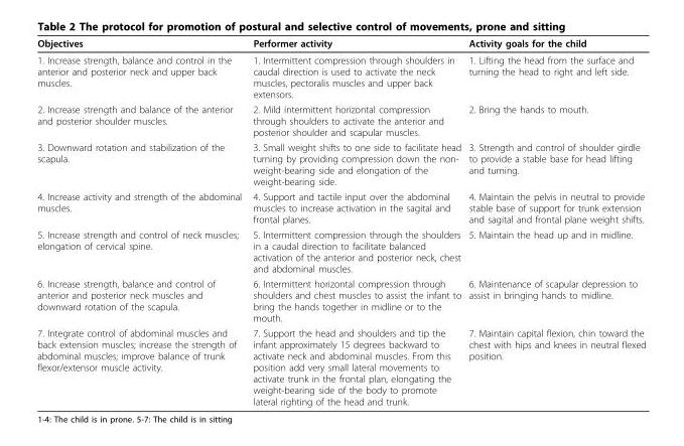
<table><thead><tr><td>Objectives</td><td>Performer activity</td><td>Activity goals for the child</td></tr></thead><tbody><tr><td>1. Increase strength, balance and control in the anterior and posterior neck and upper back muscles.</td><td>1. Intermittent compression through shoulders in caudal direction is used to activate the neck muscles, pectoralis muscles and upper back extensors.</td><td>1. Lifting the head from the surface and turning the head to right and left side.</td></tr><tr><td>2. Increase strength and balance of the anterior and posterior shoulder muscles.</td><td>2. Mild intermittent horizontal compression through shoulders to activate the anterior and posterior shoulder and scapular muscles.</td><td>2. Bring the hands to mouth.</td></tr><tr><td>3. Downward rotation and stabilization of the scapula.</td><td>3. Small weight shifts to one side to facilitate head turning by providing compression down the non- weight-bearing side and elongation of the weight-bearing side.</td><td>3. Strength and control of shoulder girdle to provide a stable base for head lifting and turning.</td></tr><tr><td>4. Increase activity and strength of the abdominal muscles.</td><td>4. Support and tactile input over the abdominal muscles to increase activation in the sagital and frontal planes.</td><td>4. Maintain the pelvis in neutral to provide stable base of support for trunk extension and sagital and frontal plane weight shifts.</td></tr><tr><td>5. Increase strength and control of neck muscles; elongation of cervical spine.</td><td>5. Intermittent compression through the shoulders in a caudal direction to facilitate balanced activation of the anterior and posterior neck, chest and abdominal muscles.</td><td>5. Maintain the head up and in midline.</td></tr><tr><td>6. Increase strength, balance and control of anterior and posterior neck muscles and downward rotation of the scapula.</td><td>6. Intermittent horizontal compression through shoulders and chest muscles to assist the infant to bring the hands together in midline or to the mouth.</td><td>6. Maintenance of scapular depression to assist in bringing hands to midline.</td></tr><tr><td>7. Integrate control of abdominal muscles and back extension muscles; increase the strength of abdominal muscles; improve balance of trunk flexor/extensor muscle activity.</td><td>7. Support the head and shoulders and tip the infant approximately 15 degrees backward to activate neck and abdominal muscles. From this position add very small lateral movements to activate trunk in the frontal plan, elongating the weight-bearing side of the body to promote lateral righting of the head and trunk.</td><td>7. Maintain capital flexion, chin toward the chest with hips and knees in neutral flexed position.</td></tr></tbody></table>